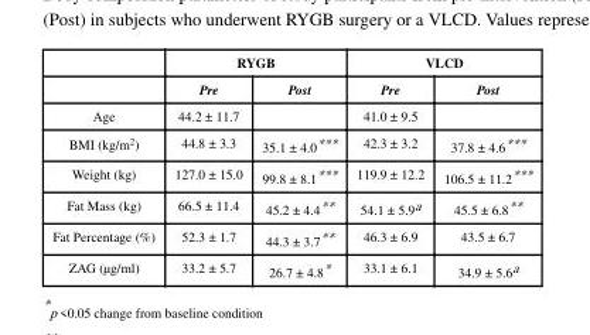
<table><thead><tr><td rowspan="2"></td><td colspan="2">RYGB</td><td colspan="2">VLCD</td></tr><tr><td>Pre</td><td>Post</td><td>Pre</td><td>Post</td></tr></thead><tbody><tr><td>Age</td><td>44.2 ± 11.7</td><td></td><td>41.0 ± 9.5</td><td></td></tr><tr><td>BMI (kg/m<sup>2</sup>)</td><td>44.8 ± 3.3</td><td>35.1 ± 4.0***</td><td>42.3 ± 3.2</td><td>37.8 ± 4.6***</td></tr><tr><td>Weight (kg)</td><td>127.0 ± 15.0</td><td>99.8 ± 8.1***</td><td>119.9 ± 12.2</td><td>106.5 ± 11.2***</td></tr><tr><td>Fat Mass (kg)</td><td>66.5 ± 11.4</td><td>45.2 ± 4.4**</td><td>54.1 ± 5.9<sup>a</sup></td><td>45.5 ± 6.8**</td></tr><tr><td>Fat Percentage (%)</td><td>52.3 ± 1.7</td><td>44.3 ± 3.7**</td><td>46.3 ± 6.9</td><td>43.5 ± 6.7</td></tr><tr><td>ZAG (μg/ml)</td><td>33.2 ± 5.7</td><td>26.7 ± 4.8*</td><td>33.1 ± 6.1</td><td>34.9 ± 5.6<sup>a</sup></td></tr></tbody></table>